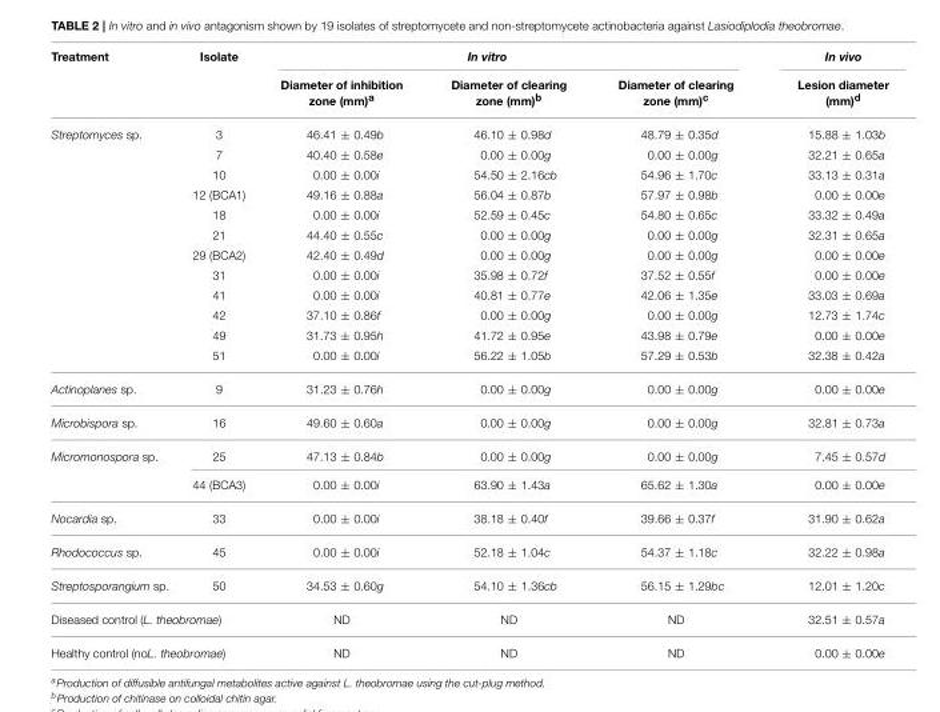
<table><thead><tr><td rowspan="2">Treatment</td><td rowspan="2">Isolate</td><td colspan="3">In vitro</td><td rowspan="2">In vivo Lesion diameter (mm)<sup>d</sup></td></tr><tr><td>Diameter of inhibition zone (mm)<sup>a</sup></td><td>Diameter of clearing zone (mm)<sup>b</sup></td><td>Diameter of clearing zone (mm)<sup>c</sup></td></tr></thead><tbody><tr><td rowspan="12">Streptomyces sp.</td><td>3</td><td>46.41 ± 0.49b</td><td>46.10 ± 0.98d</td><td>48.79 ± 0.35d</td><td>15.88 ± 1.03b</td></tr><tr><td>7</td><td>40.40 ± 0.58e</td><td>0.00 ± 0.00g</td><td>0.00 ± 0.00g</td><td>32.21 ± 0.65a</td></tr><tr><td>10</td><td>0.00 ± 0.00i</td><td>54.50 ± 2.16cb</td><td>54.96 ± 1.70c</td><td>33.13 ± 0.31a</td></tr><tr><td>12 (BCA1)</td><td>49.16 ± 0.88a</td><td>56.04 ± 0.87b</td><td>57.97 ± 0.98b</td><td>0.00 ± 0.00e</td></tr><tr><td>18</td><td>0.00 ± 0.00i</td><td>52.59 ± 0.45c</td><td>54.80 ± 0.65c</td><td>33.32 ± 0.49a</td></tr><tr><td>21</td><td>44.40 ± 0.55c</td><td>0.00 ± 0.00g</td><td>0.00 ± 0.00g</td><td>32.31 ± 0.65a</td></tr><tr><td>29 (BCA2)</td><td>42.40 ± 0.49d</td><td>0.00 ± 0.00g</td><td>0.00 ± 0.00g</td><td>0.00 ± 0.00e</td></tr><tr><td>31</td><td>0.00 ± 0.00i</td><td>35.98 ± 0.72f</td><td>37.52 ± 0.55f</td><td>0.00 ± 0.00e</td></tr><tr><td>41</td><td>0.00 ± 0.00i</td><td>40.81 ± 0.77e</td><td>42.06 ± 1.35e</td><td>33.03 ± 0.69a</td></tr><tr><td>42</td><td>37.10 ± 0.86f</td><td>0.00 ± 0.00g</td><td>0.00 ± 0.00g</td><td>12.73 ± 1.74c</td></tr><tr><td>49</td><td>31.73 ± 0.95h</td><td>41.72 ± 0.95e</td><td>43.98 ± 0.79e</td><td>0.00 ± 0.00e</td></tr><tr><td>51</td><td>0.00 ± 0.00i</td><td>56.22 ± 1.05b</td><td>57.29 ± 0.53b</td><td>32.38 ± 0.42a</td></tr><tr><td>Actinoplanes sp.</td><td>9</td><td>31.23 ± 0.76h</td><td>0.00 ± 0.00g</td><td>0.00 ± 0.00g</td><td>0.00 ± 0.00e</td></tr><tr><td>Microbispora sp.</td><td>16</td><td>49.60 ± 0.60a</td><td>0.00 ± 0.00g</td><td>0.00 ± 0.00g</td><td>32.81 ± 0.73a</td></tr><tr><td rowspan="2">Micromonospora sp.</td><td>25</td><td>47.13 ± 0.84b</td><td>0.00 ± 0.00g</td><td>0.00 ± 0.00g</td><td>7.45 ± 0.57d</td></tr><tr><td>44 (BCA3)</td><td>0.00 ± 0.00i</td><td>63.90 ± 1.43a</td><td>65.62 ± 1.30a</td><td>0.00 ± 0.00e</td></tr><tr><td>Nocardia sp.</td><td>33</td><td>0.00 ± 0.00i</td><td>38.18 ± 0.40f</td><td>39.66 ± 0.37f</td><td>31.90 ± 0.62a</td></tr><tr><td>Rhodococcus sp.</td><td>45</td><td>0.00 ± 0.00i</td><td>52.18 ± 1.04c</td><td>54.37 ± 1.18c</td><td>32.22 ± 0.98a</td></tr><tr><td>Streptosporangium sp.</td><td>50</td><td>34.53 ± 0.60g</td><td>54.10 ± 1.36cb</td><td>56.15 ± 1.29bc</td><td>12.01 ± 1.20c</td></tr><tr><td colspan="2">Diseased control (L. theobromae)</td><td>ND</td><td>ND</td><td>ND</td><td>32.51 ± 0.57a</td></tr><tr><td colspan="2">Healthy control (noL. theobromae)</td><td>ND</td><td>ND</td><td>ND</td><td>0.00 ± 0.00e</td></tr></tbody></table>